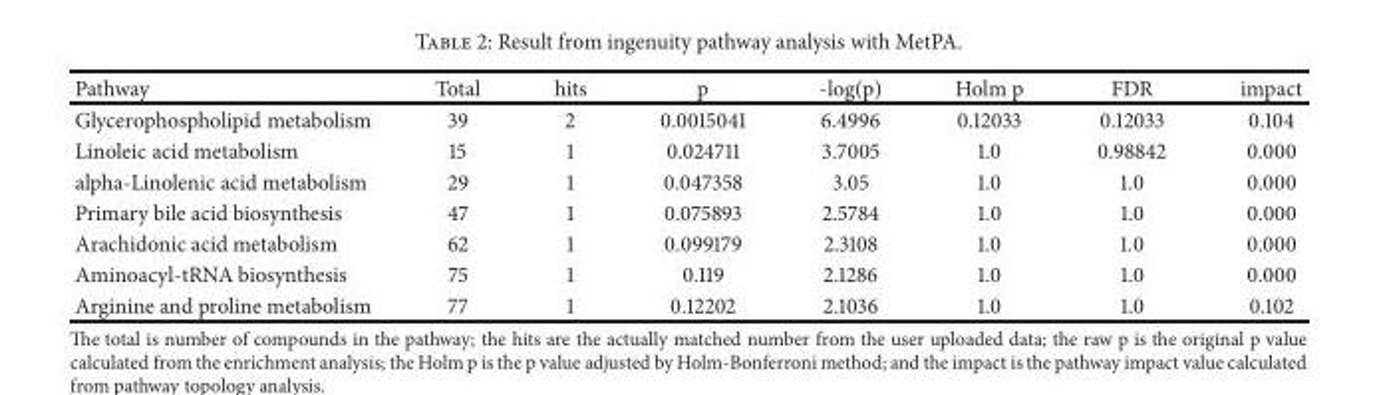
<table><thead><tr><td>Pathway</td><td>Total</td><td>hits</td><td>p</td><td>-log(p)</td><td>Holm p</td><td>FDR</td><td>impact</td></tr></thead><tbody><tr><td>Glycerophospholipid metabolism</td><td>39</td><td>2</td><td>0.0015041</td><td>6.4996</td><td>0.12033</td><td>0.12033</td><td>0.104</td></tr><tr><td>Linoleic acid metabolism</td><td>15</td><td>1</td><td>0.024711</td><td>3.7005</td><td>1.0</td><td>0.98842</td><td>0.000</td></tr><tr><td>alpha-Linolenic acid metabolism</td><td>29</td><td>1</td><td>0.047358</td><td>3.05</td><td>1.0</td><td>1.0</td><td>0.000</td></tr><tr><td>Primary bile acid biosynthesis</td><td>47</td><td>1</td><td>0.075893</td><td>2.5784</td><td>1.0</td><td>1.0</td><td>0.000</td></tr><tr><td>Arachidonic acid metabolism</td><td>62</td><td>1</td><td>0.099179</td><td>2.3108</td><td>1.0</td><td>1.0</td><td>0.000</td></tr><tr><td>Aminoacyl-tRNA biosynthesis</td><td>75</td><td>1</td><td>0.119</td><td>2.1286</td><td>1.0</td><td>1.0</td><td>0.000</td></tr><tr><td>Arginine and proline metabolism</td><td>77</td><td>1</td><td>0.12202</td><td>2.1036</td><td>1.0</td><td>1.0</td><td>0.102</td></tr></tbody></table>